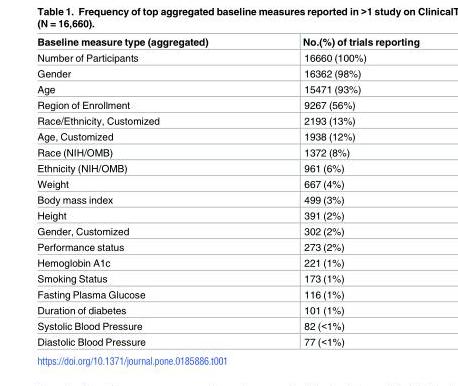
<table><thead><tr><td>Baseline measure type (aggregated)</td><td>No.(%) of trials reporting</td></tr></thead><tbody><tr><td>Number of Participants</td><td>16660 (100%)</td></tr><tr><td>Gender</td><td>16362 (98%)</td></tr><tr><td>Age</td><td>15471 (93%)</td></tr><tr><td>Region of Enrollment</td><td>9267 (56%)</td></tr><tr><td>Race/Ethnicity, Customized</td><td>2193 (13%)</td></tr><tr><td>Age, Customized</td><td>1938 (12%)</td></tr><tr><td>Race (NIH/OMB)</td><td>1372 (8%)</td></tr><tr><td>Ethnicity (NIH/OMB)</td><td>961 (6%)</td></tr><tr><td>Weight</td><td>667 (4%)</td></tr><tr><td>Body mass index</td><td>499 (3%)</td></tr><tr><td>Height</td><td>391 (2%)</td></tr><tr><td>Gender, Customized</td><td>302 (2%)</td></tr><tr><td>Performance status</td><td>273 (2%)</td></tr><tr><td>Hemoglobin A1c</td><td>221 (1%)</td></tr><tr><td>Smoking Status</td><td>173 (1%)</td></tr><tr><td>Fasting Plasma Glucose</td><td>116 (1%)</td></tr><tr><td>Duration of diabetes</td><td>101 (1%)</td></tr><tr><td>Systolic Blood Pressure</td><td>82 (&lt;1%)</td></tr><tr><td>Diastolic Blood Pressure</td><td>77 (&lt;1%)</td></tr></tbody></table>